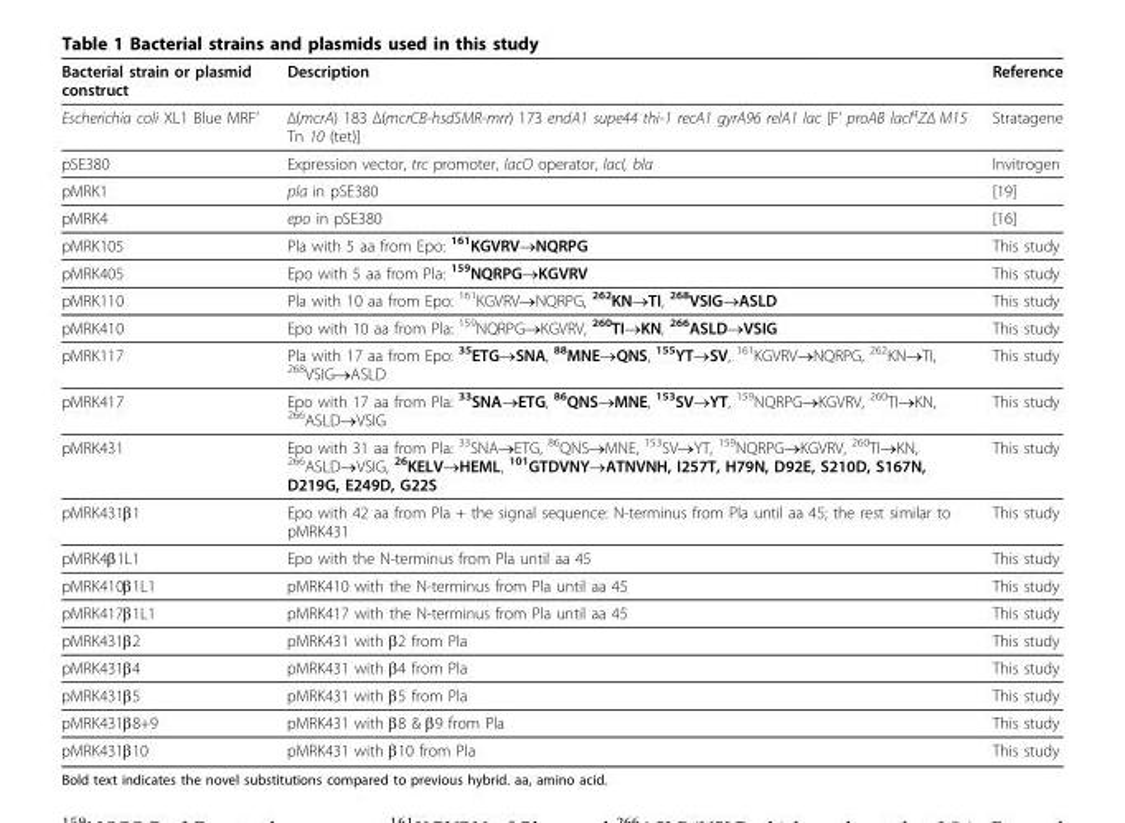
<table><thead><tr><td>Bacterial strain or plasmid construct</td><td>Description</td><td>Reference</td></tr></thead><tbody><tr><td>Escherichia coli XL1 Blue MRF’</td><td>Δ(mcrA) 183 Δ(mcrCB-hsdSMR-mrr) 173 endA1 supe44 thi-1 recA1 gyrA96 relA1 lac [F’ proAB lacI<sup>q</sup>ZΔ M15 Tn 10 (tet)]</td><td>Stratagene</td></tr><tr><td>pSE380</td><td>Expression vector, trc promoter, lacO operator, lacI, bla</td><td>Invitrogen</td></tr><tr><td>pMRK1</td><td>pla in pSE380</td><td>[19]</td></tr><tr><td>pMRK4</td><td>epo in pSE380</td><td>[16]</td></tr><tr><td>pMRK105</td><td>Pla with 5 aa from Epo: <sup>161</sup>KGVRV→NQRPG</td><td>This study</td></tr><tr><td>pMRK405</td><td>Epo with 5 aa from Pla: <sup>159</sup>NQRPG→KGVRV</td><td>This study</td></tr><tr><td>pMRK110</td><td>Pla with 10 aa from Epo: <sup>161</sup>KGVRV→NQRPG, <sup>262</sup>KN→TI, <sup>268</sup>VSIG→ASLD</td><td>This study</td></tr><tr><td>pMRK410</td><td>Epo with 10 aa from Pla: <sup>159</sup>NQRPG→KGVRV, <sup>260</sup>TI→KN, <sup>266</sup>ASLD→VSIG</td><td>This study</td></tr><tr><td>pMRK117</td><td>Pla with 17 aa from Epo: <sup>35</sup>ETG→SNA, <sup>88</sup>MNE→QNS, <sup>155</sup>YT→SV, <sup>161</sup>KGVRV→NQRPG, <sup>262</sup>KN→TI, <sup>268</sup>VSIG→ASLD</td><td>This study</td></tr><tr><td>pMRK417</td><td>Epo with 17 aa from Pla: <sup>33</sup>SNA→ETG, <sup>86</sup>QNS→MNE, <sup>153</sup>SV→YT, <sup>159</sup>NQRPG→KGVRV, <sup>260</sup>TI→KN, <sup>266</sup>ASLD→VSIG</td><td>This study</td></tr><tr><td>pMRK431</td><td>Epo with 31 aa from Pla: <sup>33</sup>SNA→ETG, <sup>86</sup>QNS→MNE, <sup>153</sup>SV→YT, <sup>159</sup>NQRPG→KGVRV, <sup>260</sup>TI→KN, <sup>266</sup>ASLD→VSIG, <sup>26</sup>KELV→HEML, <sup>101</sup>GTDVNY→ATNVNH, I257T, H79N, D92E, S210D, S167N, D219G, E249D, G22S</td><td>This study</td></tr><tr><td>pMRK431β1</td><td>Epo with 42 aa from Pla + the signal sequence: N-terminus from Pla until aa 45; the rest similar to pMRK431</td><td>This study</td></tr><tr><td>pMRK4β1L1</td><td>Epo with the N-terminus from Pla until aa 45</td><td>This study</td></tr><tr><td>pMRK410β1L1</td><td>pMRK410 with the N-terminus from Pla until aa 45</td><td>This study</td></tr><tr><td>pMRK417β1L1</td><td>pMRK417 with the N-terminus from Pla until aa 45</td><td>This study</td></tr><tr><td>pMRK431β2</td><td>pMRK431 with β2 from Pla</td><td>This study</td></tr><tr><td>pMRK431β4</td><td>pMRK431 with β4 from Pla</td><td>This study</td></tr><tr><td>pMRK431β5</td><td>pMRK431 with β5 from Pla</td><td>This study</td></tr><tr><td>pMRK431β8+9</td><td>pMRK431 with β8 &amp; β9 from Pla</td><td>This study</td></tr><tr><td>pMRK431β10</td><td>pMRK431 with β10 from Pla</td><td>This study</td></tr></tbody></table>